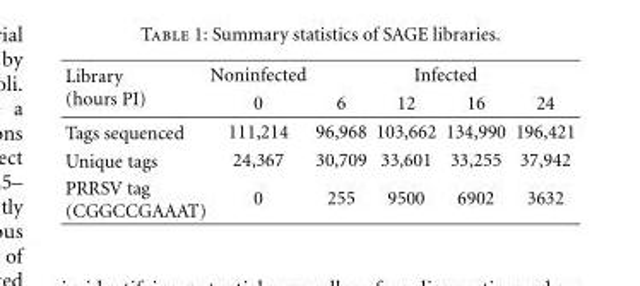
<table><thead><tr><td rowspan="2">Library (hours PI)</td><td rowspan="2">Noninfected 0</td><td colspan="4">Infected</td></tr><tr><td>6</td><td>12</td><td>16</td><td>24</td></tr></thead><tbody><tr><td>Tags sequenced</td><td>111,214</td><td>96,968</td><td>103,662</td><td>134,990</td><td>196,421</td></tr><tr><td>Unique tags</td><td>24,367</td><td>30,709</td><td>33,601</td><td>33,255</td><td>37,942</td></tr><tr><td>PRRSV tag (CGGCCGAAAT)</td><td>0</td><td>255</td><td>9500</td><td>6902</td><td>3632</td></tr></tbody></table>